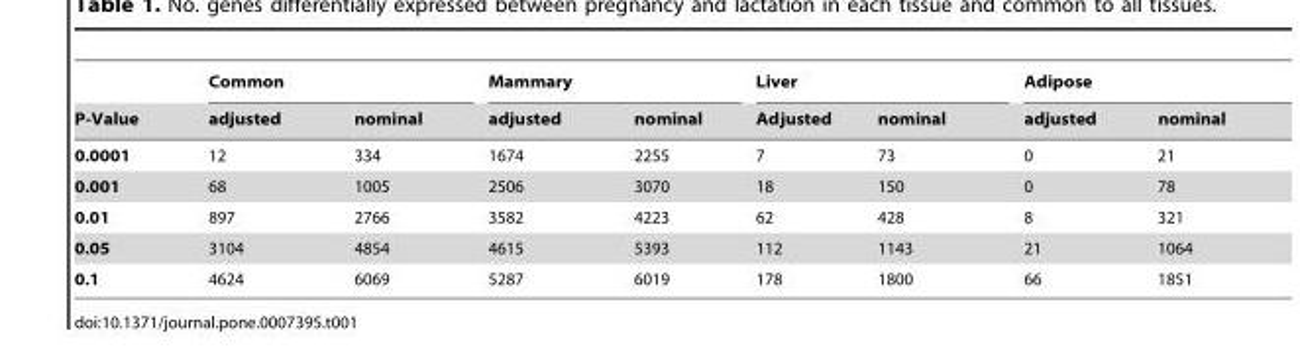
<table><thead><tr><td rowspan="2">P-Value</td><td colspan="2">Common</td><td colspan="2">Mammary</td><td colspan="2">Liver</td><td colspan="2">Adipose</td></tr><tr><td>adjusted</td><td>nominal</td><td>adjusted</td><td>nominal</td><td>Adjusted</td><td>nominal</td><td>adjusted</td><td>nominal</td></tr></thead><tbody><tr><td>0.0001</td><td>12</td><td>334</td><td>1674</td><td>2255</td><td>7</td><td>73</td><td>0</td><td>21</td></tr><tr><td>0.001</td><td>68</td><td>1005</td><td>2506</td><td>3070</td><td>18</td><td>150</td><td>0</td><td>78</td></tr><tr><td>0.01</td><td>897</td><td>2766</td><td>3582</td><td>4223</td><td>62</td><td>428</td><td>8</td><td>321</td></tr><tr><td>0.05</td><td>3104</td><td>4854</td><td>4615</td><td>5393</td><td>112</td><td>1143</td><td>21</td><td>1064</td></tr><tr><td>0.1</td><td>4624</td><td>6069</td><td>5287</td><td>6019</td><td>178</td><td>1800</td><td>66</td><td>1851</td></tr></tbody></table>